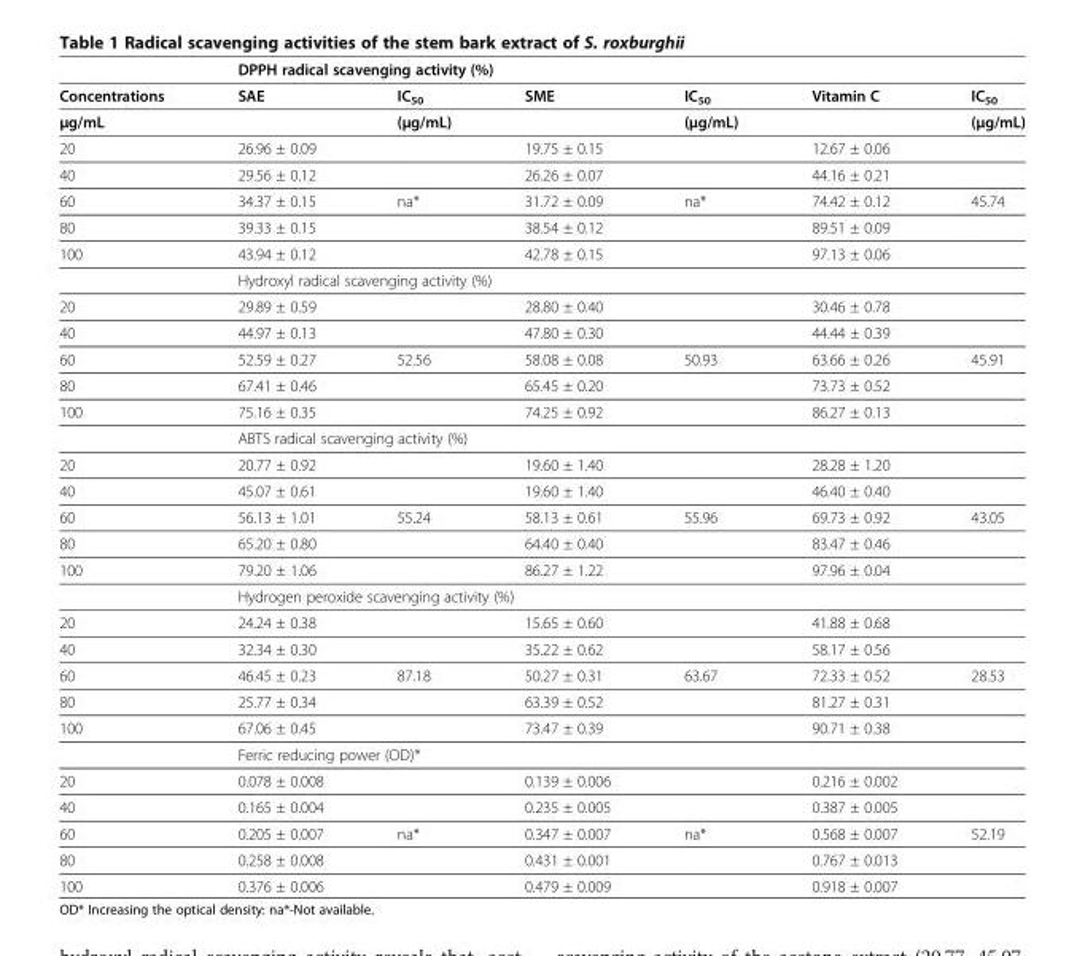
<table><thead><tr><td rowspan="3">Concentrations μg/mL</td><td colspan="6">DPPH radical scavenging activity (%)</td></tr><tr><td rowspan="2">SAE</td><td rowspan="2">IC<sub>50</sub> (μg/mL)</td><td rowspan="2">SME</td><td rowspan="2">IC<sub>50</sub> (μg/mL)</td><td rowspan="2">Vitamin C</td><td rowspan="2">IC<sub>50</sub> (μg/mL)</td></tr><tr></tr></thead><tbody><tr><td>20</td><td>26.96 ± 0.09</td><td></td><td>19.75 ± 0.15</td><td></td><td>12.67 ± 0.06</td><td></td></tr><tr><td>40</td><td>29.56 ± 0.12</td><td></td><td>26.26 ± 0.07</td><td></td><td>44.16 ± 0.21</td><td></td></tr><tr><td>60</td><td>34.37 ± 0.15</td><td>na*</td><td>31.72 ± 0.09</td><td>na*</td><td>74.42 ± 0.12</td><td>45.74</td></tr><tr><td>80</td><td>39.33 ± 0.15</td><td></td><td>38.54 ± 0.12</td><td></td><td>89.51 ± 0.09</td><td></td></tr><tr><td rowspan="2">100</td><td>43.94 ± 0.12</td><td></td><td>42.78 ± 0.15</td><td></td><td>97.13 ± 0.06</td><td></td></tr><tr><td colspan="6">Hydroxyl radical scavenging activity (%)</td></tr><tr><td>20</td><td>29.89 ± 0.59</td><td></td><td>28.80 ± 0.40</td><td></td><td>30.46 ± 0.78</td><td></td></tr><tr><td>40</td><td>44.97 ± 0.13</td><td></td><td>47.80 ± 0.30</td><td></td><td>44.44 ± 0.39</td><td></td></tr><tr><td>60</td><td>52.59 ± 0.27</td><td>52.56</td><td>58.08 ± 0.08</td><td>50.93</td><td>63.66 ± 0.26</td><td>45.91</td></tr><tr><td>80</td><td>67.41 ± 0.46</td><td></td><td>65.45 ± 0.20</td><td></td><td>73.73 ± 0.52</td><td></td></tr><tr><td rowspan="2">100</td><td>75.16 ± 0.35</td><td></td><td>74.25 ± 0.92</td><td></td><td>86.27 ± 0.13</td><td></td></tr><tr><td colspan="6">ABTS radical scavenging activity (%)</td></tr><tr><td>20</td><td>20.77 ± 0.92</td><td></td><td>19.60 ± 1.40</td><td></td><td>28.28 ± 1.20</td><td></td></tr><tr><td>40</td><td>45.07 ± 0.61</td><td></td><td>19.60 ± 1.40</td><td></td><td>46.40 ± 0.40</td><td></td></tr><tr><td>60</td><td>56.13 ± 1.01</td><td>55.24</td><td>58.13 ± 0.61</td><td>55.96</td><td>69.73 ± 0.92</td><td>43.05</td></tr><tr><td>80</td><td>65.20 ± 0.80</td><td></td><td>64.40 ± 0.40</td><td></td><td>83.47 ± 0.46</td><td></td></tr><tr><td rowspan="2">100</td><td>79.20 ± 1.06</td><td></td><td>86.27 ± 1.22</td><td></td><td>97.96 ± 0.04</td><td></td></tr><tr><td colspan="6">Hydrogen peroxide scavenging activity (%)</td></tr><tr><td>20</td><td>24.24 ± 0.38</td><td></td><td>15.65 ± 0.60</td><td></td><td>41.88 ± 0.68</td><td></td></tr><tr><td>40</td><td>32.34 ± 0.30</td><td></td><td>35.22 ± 0.62</td><td></td><td>58.17 ± 0.56</td><td></td></tr><tr><td>60</td><td>46.45 ± 0.23</td><td>87.18</td><td>50.27 ± 0.31</td><td>63.67</td><td>72.33 ± 0.52</td><td>28.53</td></tr><tr><td>80</td><td>25.77 ± 0.34</td><td></td><td>63.39 ± 0.52</td><td></td><td>81.27 ± 0.31</td><td></td></tr><tr><td rowspan="2">100</td><td>67.06 ± 0.45</td><td></td><td>73.47 ± 0.39</td><td></td><td>90.71 ± 0.38</td><td></td></tr><tr><td colspan="6">Ferric reducing power (OD)*</td></tr><tr><td>20</td><td>0.078 ± 0.008</td><td></td><td>0.139 ± 0.006</td><td></td><td>0.216 ± 0.002</td><td></td></tr><tr><td>40</td><td>0.165 ± 0.004</td><td></td><td>0.235 ± 0.005</td><td></td><td>0.387 ± 0.005</td><td></td></tr><tr><td>60</td><td>0.205 ± 0.007</td><td>na*</td><td>0.347 ± 0.007</td><td>na*</td><td>0.568 ± 0.007</td><td>52.19</td></tr><tr><td>80</td><td>0.258 ± 0.008</td><td></td><td>0.431 ± 0.001</td><td></td><td>0.767 ± 0.013</td><td></td></tr><tr><td>100</td><td>0.376 ± 0.006</td><td></td><td>0.479 ± 0.009</td><td></td><td>0.918 ± 0.007</td><td></td></tr></tbody></table>